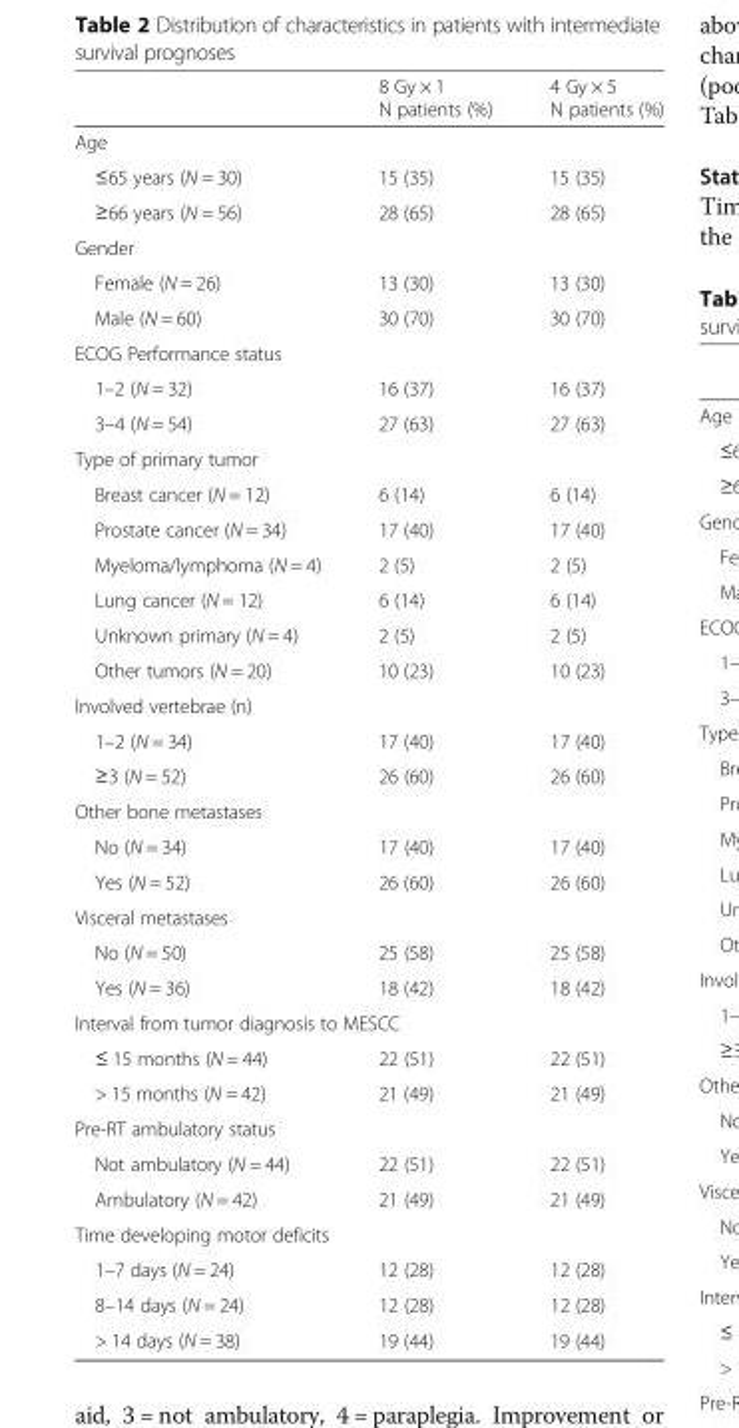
<table><thead><tr><td></td><td>8 Gy × 1 N patients (%)</td><td>4 Gy × 5 N patients (%)</td></tr></thead><tbody><tr><td colspan="3">Age</td></tr><tr><td>≤65 years (N = 30)</td><td>15 (35)</td><td>15 (35)</td></tr><tr><td>≥66 years (N = 56)</td><td>28 (65)</td><td>28 (65)</td></tr><tr><td colspan="3">Gender</td></tr><tr><td>Female (N = 26)</td><td>13 (30)</td><td>13 (30)</td></tr><tr><td>Male (N = 60)</td><td>30 (70)</td><td>30 (70)</td></tr><tr><td colspan="3">ECOG Performance status</td></tr><tr><td>1–2 (N = 32)</td><td>16 (37)</td><td>16 (37)</td></tr><tr><td>3–4 (N = 54)</td><td>27 (63)</td><td>27 (63)</td></tr><tr><td colspan="3">Type of primary tumor</td></tr><tr><td>Breast cancer (N = 12)</td><td>6 (14)</td><td>6 (14)</td></tr><tr><td>Prostate cancer (N = 34)</td><td>17 (40)</td><td>17 (40)</td></tr><tr><td>Myeloma/lymphoma (N = 4)</td><td>2 (5)</td><td>2 (5)</td></tr><tr><td>Lung cancer (N = 12)</td><td>6 (14)</td><td>6 (14)</td></tr><tr><td>Unknown primary (N = 4)</td><td>2 (5)</td><td>2 (5)</td></tr><tr><td>Other tumors (N = 20)</td><td>10 (23)</td><td>10 (23)</td></tr><tr><td colspan="3">Involved vertebrae (n)</td></tr><tr><td>1–2 (N = 34)</td><td>17 (40)</td><td>17 (40)</td></tr><tr><td>≥3 (N = 52)</td><td>26 (60)</td><td>26 (60)</td></tr><tr><td colspan="3">Other bone metastases</td></tr><tr><td>No (N = 34)</td><td>17 (40)</td><td>17 (40)</td></tr><tr><td>Yes (N = 52)</td><td>26 (60)</td><td>26 (60)</td></tr><tr><td colspan="3">Visceral metastases</td></tr><tr><td>No (N = 50)</td><td>25 (58)</td><td>25 (58)</td></tr><tr><td>Yes (N = 36)</td><td>18 (42)</td><td>18 (42)</td></tr><tr><td colspan="3">Interval from tumor diagnosis to MESCC</td></tr><tr><td>≤ 15 months (N = 44)</td><td>22 (51)</td><td>22 (51)</td></tr><tr><td>&gt; 15 months (N = 42)</td><td>21 (49)</td><td>21 (49)</td></tr><tr><td colspan="3">Pre-RT ambulatory status</td></tr><tr><td>Not ambulatory (N = 44)</td><td>22 (51)</td><td>22 (51)</td></tr><tr><td>Ambulatory (N = 42)</td><td>21 (49)</td><td>21 (49)</td></tr><tr><td colspan="3">Time developing motor deficits</td></tr><tr><td>1–7 days (N = 24)</td><td>12 (28)</td><td>12 (28)</td></tr><tr><td>8–14 days (N = 24)</td><td>12 (28)</td><td>12 (28)</td></tr><tr><td>&gt; 14 days (N = 38)</td><td>19 (44)</td><td>19 (44)</td></tr></tbody></table>